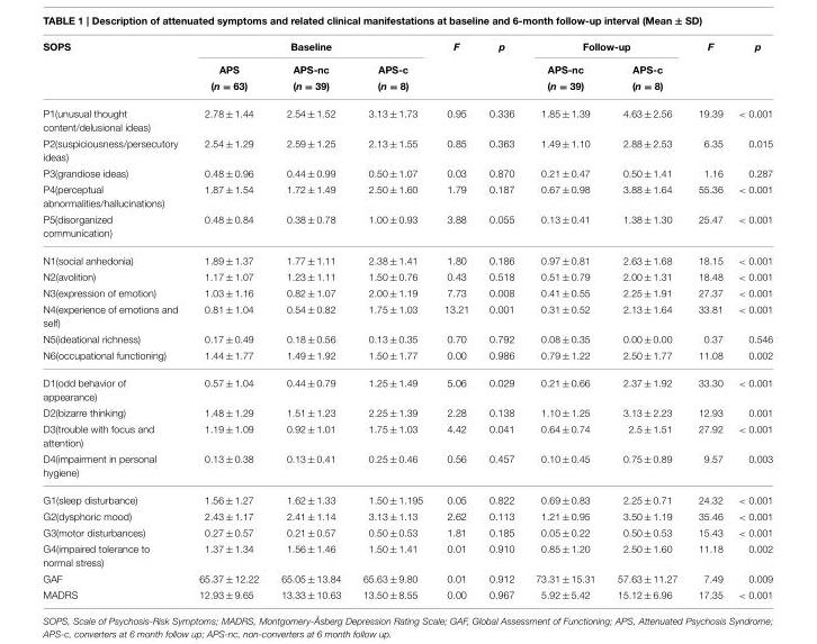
<table><thead><tr><td rowspan="2">SOPS</td><td colspan="3">Baseline</td><td rowspan="2">F</td><td rowspan="2">p</td><td colspan="2">Follow-up</td><td rowspan="2">F</td><td rowspan="2">p</td></tr><tr><td>APS (n = 63)</td><td>APS-nc (n = 39)</td><td>APS-c (n = 8)</td><td>APS-nc (n = 39)</td><td>APS-c (n = 8)</td></tr></thead><tbody><tr><td>P1(unusual thought content/delusional ideas)</td><td>2.78 ± 1.44</td><td>2.54 ± 1.52</td><td>3.13 ± 1.73</td><td>0.95</td><td>0.336</td><td>1.85 ± 1.39</td><td>4.63 ± 2.56</td><td>19.39</td><td>&lt; 0.001</td></tr><tr><td>P2(suspiciousness/persecutory ideas)</td><td>2.54 ± 1.29</td><td>2.59 ± 1.25</td><td>2.13 ± 1.55</td><td>0.85</td><td>0.363</td><td>1.49 ± 1.10</td><td>2.88 ± 2.53</td><td>6.35</td><td>0.015</td></tr><tr><td>P3(grandiose ideas)</td><td>0.48 ± 0.96</td><td>0.44 ± 0.99</td><td>0.50 ± 1.07</td><td>0.03</td><td>0.870</td><td>0.21 ± 0.47</td><td>0.50 ± 1.41</td><td>1.16</td><td>0.287</td></tr><tr><td>P4(perceptual abnormalities/hallucinations)</td><td>1.87 ± 1.54</td><td>1.72 ± 1.49</td><td>2.50 ± 1.60</td><td>1.79</td><td>0.187</td><td>0.67 ± 0.98</td><td>3.88 ± 1.64</td><td>55.36</td><td>&lt; 0.001</td></tr><tr><td>P5(disorganized communication)</td><td>0.48 ± 0.84</td><td>0.38 ± 0.78</td><td>1.00 ± 0.93</td><td>3.88</td><td>0.055</td><td>0.13 ± 0.41</td><td>1.38 ± 1.30</td><td>25.47</td><td>&lt; 0.001</td></tr><tr><td>N1(social anhedonia)</td><td>1.89 ± 1.37</td><td>1.77 ± 1.11</td><td>2.38 ± 1.41</td><td>1.80</td><td>0.186</td><td>0.97 ± 0.81</td><td>2.63 ± 1.68</td><td>18.15</td><td>&lt; 0.001</td></tr><tr><td>N2(avolition)</td><td>1.17 ± 1.07</td><td>1.23 ± 1.11</td><td>1.50 ± 0.76</td><td>0.43</td><td>0.518</td><td>0.51 ± 0.79</td><td>2.00 ± 1.31</td><td>18.48</td><td>&lt; 0.001</td></tr><tr><td>N3(expression of emotion)</td><td>1.03 ± 1.16</td><td>0.82 ± 1.07</td><td>2.00 ± 1.19</td><td>7.73</td><td>0.008</td><td>0.41 ± 0.55</td><td>2.25 ± 1.91</td><td>27.37</td><td>&lt; 0.001</td></tr><tr><td>N4(experience of emotions and self)</td><td>0.81 ± 1.04</td><td>0.54 ± 0.82</td><td>1.75 ± 1.03</td><td>13.21</td><td>0.001</td><td>0.31 ± 0.52</td><td>2.13 ± 1.64</td><td>33.81</td><td>&lt; 0.001</td></tr><tr><td>N5(ideational richness)</td><td>0.17 ± 0.49</td><td>0.18 ± 0.56</td><td>0.13 ± 0.35</td><td>0.70</td><td>0.792</td><td>0.08 ± 0.35</td><td>0.00 ± 0.00</td><td>0.37</td><td>0.546</td></tr><tr><td>N6(occupational functioning)</td><td>1.44 ± 1.77</td><td>1.49 ± 1.92</td><td>1.50 ± 1.77</td><td>0.00</td><td>0.986</td><td>0.79 ± 1.22</td><td>2.50 ± 1.77</td><td>11.08</td><td>0.002</td></tr><tr><td>D1(odd behavior of appearance)</td><td>0.57 ± 1.04</td><td>0.44 ± 0.79</td><td>1.25 ± 1.49</td><td>5.06</td><td>0.029</td><td>0.21 ± 0.66</td><td>2.37 ± 1.92</td><td>33.30</td><td>&lt; 0.001</td></tr><tr><td>D2(bizarre thinking)</td><td>1.48 ± 1.29</td><td>1.51 ± 1.23</td><td>2.25 ± 1.39</td><td>2.28</td><td>0.138</td><td>1.10 ± 1.25</td><td>3.13 ± 2.23</td><td>12.93</td><td>0.001</td></tr><tr><td>D3(trouble with focus and attention)</td><td>1.19 ± 1.09</td><td>0.92 ± 1.01</td><td>1.75 ± 1.03</td><td>4.42</td><td>0.041</td><td>0.64 ± 0.74</td><td>2.5 ± 1.51</td><td>27.92</td><td>&lt; 0.001</td></tr><tr><td>D4(impairment in personal hygiene)</td><td>0.13 ± 0.38</td><td>0.13 ± 0.41</td><td>0.25 ± 0.46</td><td>0.56</td><td>0.457</td><td>0.10 ± 0.45</td><td>0.75 ± 0.89</td><td>9.57</td><td>0.003</td></tr><tr><td>G1(sleep disturbance)</td><td>1.56 ± 1.27</td><td>1.62 ± 1.33</td><td>1.50 ± 1.195</td><td>0.05</td><td>0.822</td><td>0.69 ± 0.83</td><td>2.25 ± 0.71</td><td>24.32</td><td>&lt; 0.001</td></tr><tr><td>G2(dysphoric mood)</td><td>2.43 ± 1.17</td><td>2.41 ± 1.14</td><td>3.13 ± 1.13</td><td>2.62</td><td>0.113</td><td>1.21 ± 0.95</td><td>3.50 ± 1.19</td><td>35.46</td><td>&lt; 0.001</td></tr><tr><td>G3(motor disturbances)</td><td>0.27 ± 0.57</td><td>0.21 ± 0.57</td><td>0.50 ± 0.53</td><td>1.81</td><td>0.185</td><td>0.05 ± 0.22</td><td>0.50 ± 0.53</td><td>15.43</td><td>&lt; 0.001</td></tr><tr><td>G4(impaired tolerance to normal stress)</td><td>1.37 ± 1.34</td><td>1.56 ± 1.46</td><td>1.50 ± 1.41</td><td>0.01</td><td>0.910</td><td>0.85 ± 1.20</td><td>2.50 ± 1.60</td><td>11.18</td><td>0.002</td></tr><tr><td>GAF</td><td>65.37 ± 12.22</td><td>65.05 ± 13.84</td><td>65.63 ± 9.80</td><td>0.01</td><td>0.912</td><td>73.31 ± 15.31</td><td>57.63 ± 11.27</td><td>7.49</td><td>0.009</td></tr><tr><td>MADRS</td><td>12.93 ± 9.65</td><td>13.33 ± 10.63</td><td>13.50 ± 8.55</td><td>0.00</td><td>0.967</td><td>5.92 ± 5.42</td><td>15.12 ± 6.96</td><td>17.35</td><td>&lt; 0.001</td></tr></tbody></table>